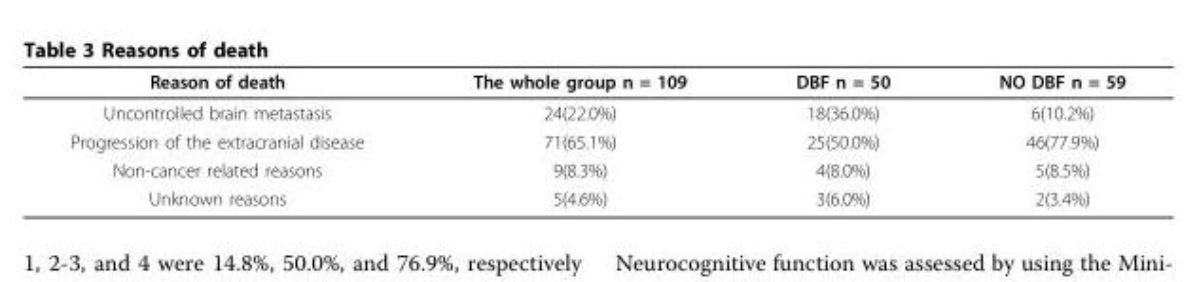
<table><thead><tr><td>Reason of death</td><td>The whole group n = 109</td><td>DBF n = 50</td><td>NO DBF n = 59</td></tr></thead><tbody><tr><td>Uncontrolled brain metastasis</td><td>24(22.0%)</td><td>18(36.0%)</td><td>6(10.2%)</td></tr><tr><td>Progression of the extracranial disease</td><td>71(65.1%)</td><td>25(50.0%)</td><td>46(77.9%)</td></tr><tr><td>Non-cancer related reasons</td><td>9(8.3%)</td><td>4(8.0%)</td><td>5(8.5%)</td></tr><tr><td>Unknown reasons</td><td>5(4.6%)</td><td>3(6.0%)</td><td>2(3.4%)</td></tr></tbody></table>